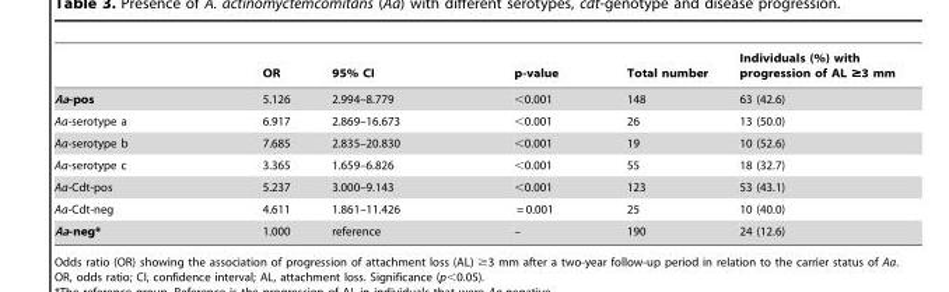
<table><thead><tr><td></td><td>OR</td><td>95% CI</td><td>p-value</td><td>Total number</td><td>Individuals (%) with progression of AL ≥3 mm</td></tr></thead><tbody><tr><td>Aa-pos</td><td>5.126</td><td>2.994–8.779</td><td>&lt;0.001</td><td>148</td><td>63 (42.6)</td></tr><tr><td>Aa-serotype a</td><td>6.917</td><td>2.869–16.673</td><td>&lt;0.001</td><td>26</td><td>13 (50.0)</td></tr><tr><td>Aa-serotype b</td><td>7.685</td><td>2.835–20.830</td><td>&lt;0.001</td><td>19</td><td>10 (52.6)</td></tr><tr><td>Aa-serotype c</td><td>3.365</td><td>1.659–6.826</td><td>&lt;0.001</td><td>55</td><td>18 (32.7)</td></tr><tr><td>Aa-Cdt-pos</td><td>5.237</td><td>3.000–9.143</td><td>&lt;0.001</td><td>123</td><td>53 (43.1)</td></tr><tr><td>Aa-Cdt-neg</td><td>4.611</td><td>1.861–11.426</td><td>= 0.001</td><td>25</td><td>10 (40.0)</td></tr><tr><td>Aa-neg*</td><td>1.000</td><td>reference</td><td>–</td><td>190</td><td>24 (12.6)</td></tr></tbody></table>